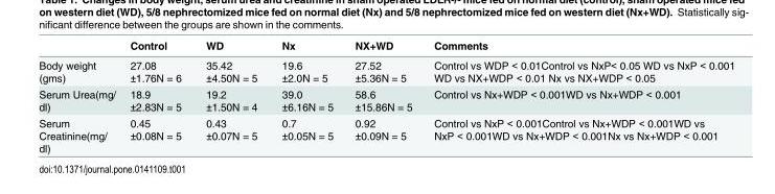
<table><thead><tr><td></td><td>Control</td><td>WD</td><td>Nx</td><td>NX+WD</td><td>Comments</td></tr></thead><tbody><tr><td>Body weight (gms)</td><td>27.08 ±1.76N = 6</td><td>35.42 ±4.50N = 5</td><td>19.6 ±2.0N = 5</td><td>27.52 ±5.36N = 5</td><td>Control vs WDP &lt; 0.01Control vs NxP&lt; 0.05 WD vs NxP &lt; 0.001 WD vs NX+WDP &lt; 0.01 Nx vs NX+WDP &lt; 0.05</td></tr><tr><td>Serum Urea(mg/ dl)</td><td>18.9 ±2.83N = 5</td><td>19.2 ±1.50N = 4</td><td>39.0 ±6.16N = 5</td><td>58.6 ±15.86N = 5</td><td>Control vs Nx+WDP &lt; 0.001WD vs Nx+WDP &lt; 0.001</td></tr><tr><td>Serum Creatinine(mg/ dl)</td><td>0.45 ±0.08N = 5</td><td>0.43 ±0.07N = 5</td><td>0.7 ±0.05N = 5</td><td>0.92 ±0.09N = 5</td><td>Control vs NxP &lt; 0.001Control vs Nx+WDP &lt; 0.001WD vs NxP &lt; 0.001WD vs Nx+WDP &lt; 0.001Nx vs Nx+WDP &lt; 0.001</td></tr></tbody></table>